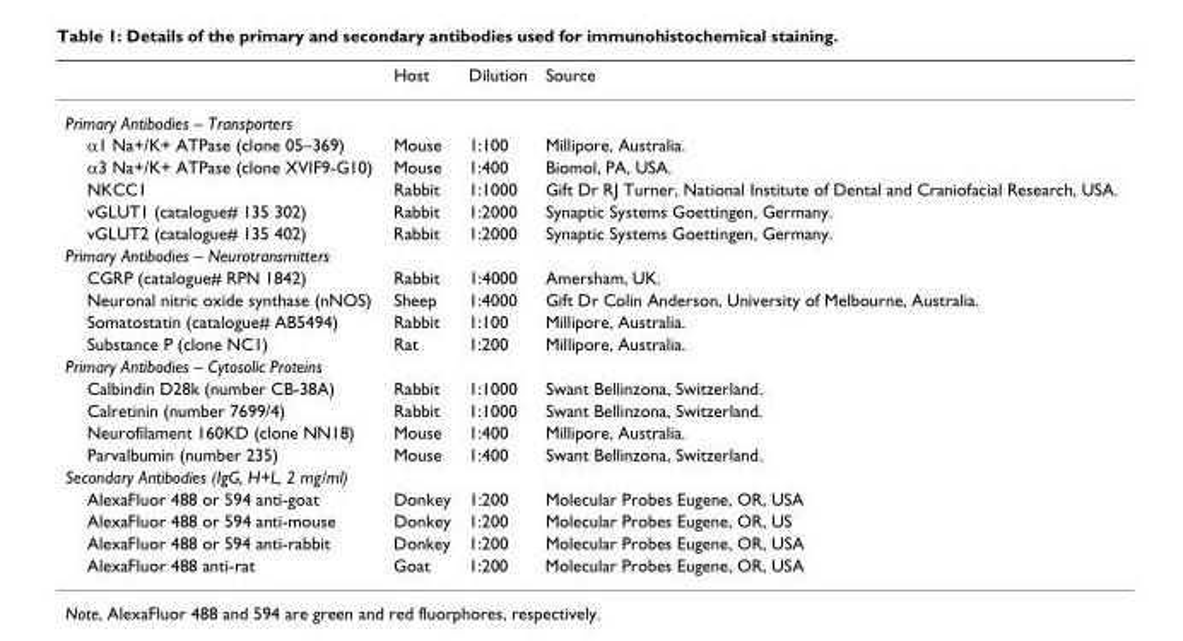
<table><thead><tr><td></td><td>Host</td><td>Dilution</td><td>Source</td></tr></thead><tbody><tr><td colspan="4">Primary Antibodies – Transporters</td></tr><tr><td>α1 Na+/K+ ATPase (clone 05–369)</td><td>Mouse</td><td>1:100</td><td>Millipore, Australia.</td></tr><tr><td>α3 Na+/K+ ATPase (clone XVIF9-G10)</td><td>Mouse</td><td>1:400</td><td>Biomol, PA, USA.</td></tr><tr><td>NKCC1</td><td>Rabbit</td><td>1:1000</td><td>Gift Dr RJ Turner, National Institute of Dental and Craniofacial Research, USA.</td></tr><tr><td>vGLUT1 (catalogue# 135 302)</td><td>Rabbit</td><td>1:2000</td><td>Synaptic Systems Goettingen, Germany.</td></tr><tr><td>vGLUT2 (catalogue# 135 402)</td><td>Rabbit</td><td>1:2000</td><td>Synaptic Systems Goettingen, Germany.</td></tr><tr><td colspan="4">Primary Antibodies – Neurotransmitters</td></tr><tr><td>CGRP (catalogue# RPN 1842)</td><td>Rabbit</td><td>1:4000</td><td>Amersham, UK.</td></tr><tr><td>Neuronal nitric oxide synthase (nNOS)</td><td>Sheep</td><td>1:4000</td><td>Gift Dr Colin Anderson, University of Melbourne, Australia.</td></tr><tr><td>Somatostatin (catalogue# AB5494)</td><td>Rabbit</td><td>1:100</td><td>Millipore, Australia.</td></tr><tr><td>Substance P (clone NC1)</td><td>Rat</td><td>1:200</td><td>Millipore, Australia.</td></tr><tr><td colspan="4">Primary Antibodies – Cytosolic Proteins</td></tr><tr><td>Calbindin D28k (number CB-38A)</td><td>Rabbit</td><td>1:1000</td><td>Swant Bellinzona, Switzerland.</td></tr><tr><td>Calretinin (number 7699/4)</td><td>Rabbit</td><td>1:1000</td><td>Swant Bellinzona, Switzerland.</td></tr><tr><td>Neurofilament 160KD (clone NN18)</td><td>Mouse</td><td>1:400</td><td>Millipore, Australia.</td></tr><tr><td>Parvalbumin (number 235)</td><td>Mouse</td><td>1:400</td><td>Swant Bellinzona, Switzerland.</td></tr><tr><td colspan="4">Secondary Antibodies (IgG, H+L, 2 mg/ml)</td></tr><tr><td>AlexaFluor 488 or 594 anti-goat</td><td>Donkey</td><td>1:200</td><td>Molecular Probes Eugene, OR, USA</td></tr><tr><td>AlexaFluor 488 or 594 anti-mouse</td><td>Donkey</td><td>1:200</td><td>Molecular Probes Eugene, OR, US</td></tr><tr><td>AlexaFluor 488 or 594 anti-rabbit</td><td>Donkey</td><td>1:200</td><td>Molecular Probes Eugene, OR, USA</td></tr><tr><td>AlexaFluor 488 anti-rat</td><td>Goat</td><td>1:200</td><td>Molecular Probes Eugene, OR, USA</td></tr></tbody></table>